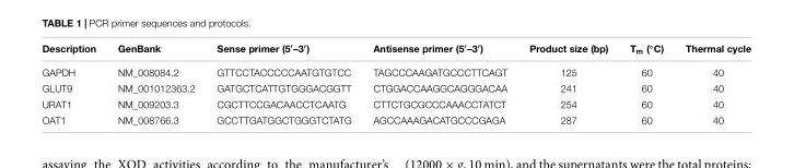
<table><thead><tr><td>Description</td><td>GenBank</td><td>Sense primer (5′–3′)</td><td>Antisense primer (5′–3′)</td><td>Product size (bp)</td><td>Tm (◦C)</td><td>Thermal cycle</td></tr></thead><tbody><tr><td>GAPDH</td><td>NM_008084.2</td><td>GTTCCTACCCCCAATGTGTCC</td><td>TAGCCCAAGATGCCCTTCAGT</td><td>125</td><td>60</td><td>40</td></tr><tr><td>GLUT9</td><td>NM_001012363.2</td><td>GATGCTCATTGTGGGACGGTT</td><td>CTGGACCAAGGCAGGGACAA</td><td>241</td><td>60</td><td>40</td></tr><tr><td>URAT1</td><td>NM_009203.3</td><td>CGCTTCCGACAACCTCAATG</td><td>CTTCTGCGCCCAAACCTATCT</td><td>254</td><td>60</td><td>40</td></tr><tr><td>OAT1</td><td>NM_008766.3</td><td>GCCTTGATGGCTGGGTCTATG</td><td>AGCCAAAGACATGCCCGAGA</td><td>287</td><td>60</td><td>40</td></tr></tbody></table>